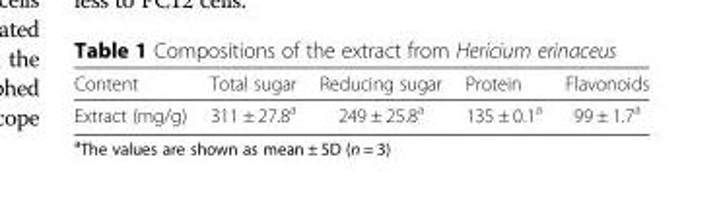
<table><thead><tr><td>Content</td><td>Total sugar</td><td>Reducing sugar</td><td>Protein</td><td>Flavonoids</td></tr></thead><tbody><tr><td>Extract (mg/g)</td><td>311 ± 27.8<sup>a</sup></td><td>249 ± 25.8<sup>a</sup></td><td>135 ± 0.1<sup>a</sup></td><td>99 ± 1.7<sup>a</sup></td></tr></tbody></table>